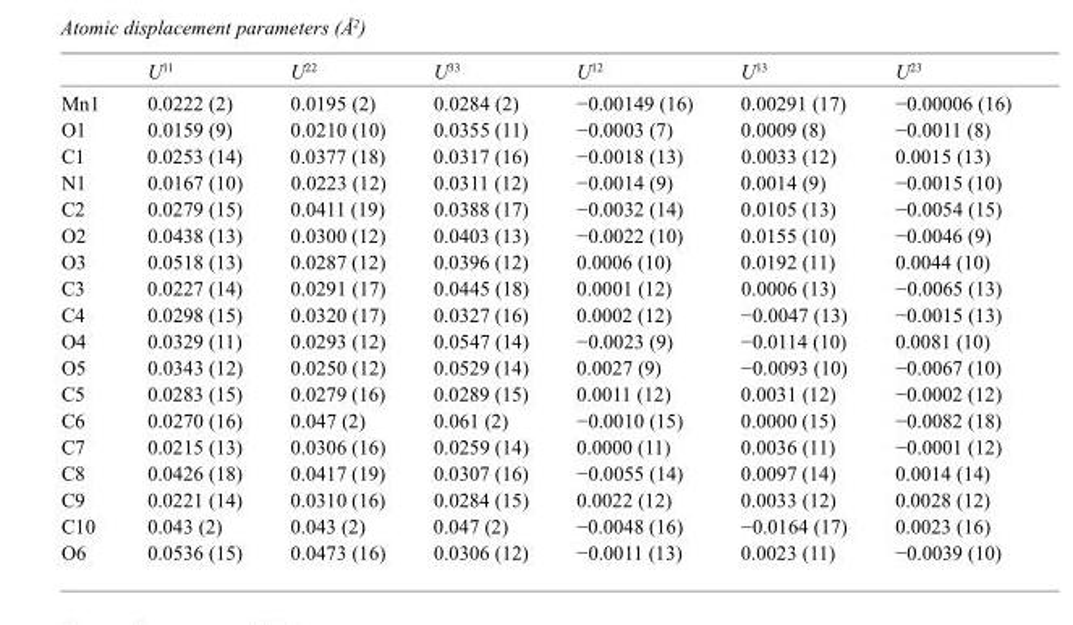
<table><thead><tr><td></td><td>U<sup>11</sup></td><td>U<sup>22</sup></td><td>U<sup>33</sup></td><td>U<sup>12</sup></td><td>U<sup>13</sup></td><td>U<sup>23</sup></td></tr></thead><tbody><tr><td>Mn1</td><td>0.0222 (2)</td><td>0.0195 (2)</td><td>0.0284 (2)</td><td>−0.00149 (16)</td><td>0.00291 (17)</td><td>−0.00006 (16)</td></tr><tr><td>O1</td><td>0.0159 (9)</td><td>0.0210 (10)</td><td>0.0355 (11)</td><td>−0.0003 (7)</td><td>0.0009 (8)</td><td>−0.0011 (8)</td></tr><tr><td>C1</td><td>0.0253 (14)</td><td>0.0377 (18)</td><td>0.0317 (16)</td><td>−0.0018 (13)</td><td>0.0033 (12)</td><td>0.0015 (13)</td></tr><tr><td>N1</td><td>0.0167 (10)</td><td>0.0223 (12)</td><td>0.0311 (12)</td><td>−0.0014 (9)</td><td>0.0014 (9)</td><td>−0.0015 (10)</td></tr><tr><td>C2</td><td>0.0279 (15)</td><td>0.0411 (19)</td><td>0.0388 (17)</td><td>−0.0032 (14)</td><td>0.0105 (13)</td><td>−0.0054 (15)</td></tr><tr><td>O2</td><td>0.0438 (13)</td><td>0.0300 (12)</td><td>0.0403 (13)</td><td>−0.0022 (10)</td><td>0.0155 (10)</td><td>−0.0046 (9)</td></tr><tr><td>O3</td><td>0.0518 (13)</td><td>0.0287 (12)</td><td>0.0396 (12)</td><td>0.0006 (10)</td><td>0.0192 (11)</td><td>0.0044 (10)</td></tr><tr><td>C3</td><td>0.0227 (14)</td><td>0.0291 (17)</td><td>0.0445 (18)</td><td>0.0001 (12)</td><td>0.0006 (13)</td><td>−0.0065 (13)</td></tr><tr><td>C4</td><td>0.0298 (15)</td><td>0.0320 (17)</td><td>0.0327 (16)</td><td>0.0002 (12)</td><td>−0.0047 (13)</td><td>−0.0015 (13)</td></tr><tr><td>O4</td><td>0.0329 (11)</td><td>0.0293 (12)</td><td>0.0547 (14)</td><td>−0.0023 (9)</td><td>−0.0114 (10)</td><td>0.0081 (10)</td></tr><tr><td>O5</td><td>0.0343 (12)</td><td>0.0250 (12)</td><td>0.0529 (14)</td><td>0.0027 (9)</td><td>−0.0093 (10)</td><td>−0.0067 (10)</td></tr><tr><td>C5</td><td>0.0283 (15)</td><td>0.0279 (16)</td><td>0.0289 (15)</td><td>0.0011 (12)</td><td>0.0031 (12)</td><td>−0.0002 (12)</td></tr><tr><td>C6</td><td>0.0270 (16)</td><td>0.047 (2)</td><td>0.061 (2)</td><td>−0.0010 (15)</td><td>0.0000 (15)</td><td>−0.0082 (18)</td></tr><tr><td>C7</td><td>0.0215 (13)</td><td>0.0306 (16)</td><td>0.0259 (14)</td><td>0.0000 (11)</td><td>0.0036 (11)</td><td>−0.0001 (12)</td></tr><tr><td>C8</td><td>0.0426 (18)</td><td>0.0417 (19)</td><td>0.0307 (16)</td><td>−0.0055 (14)</td><td>0.0097 (14)</td><td>0.0014 (14)</td></tr><tr><td>C9</td><td>0.0221 (14)</td><td>0.0310 (16)</td><td>0.0284 (15)</td><td>0.0022 (12)</td><td>0.0033 (12)</td><td>0.0028 (12)</td></tr><tr><td>C10</td><td>0.043 (2)</td><td>0.043 (2)</td><td>0.047 (2)</td><td>−0.0048 (16)</td><td>−0.0164 (17)</td><td>0.0023 (16)</td></tr><tr><td>O6</td><td>0.0536 (15)</td><td>0.0473 (16)</td><td>0.0306 (12)</td><td>−0.0011 (13)</td><td>0.0023 (11)</td><td>−0.0039 (10)</td></tr></tbody></table>